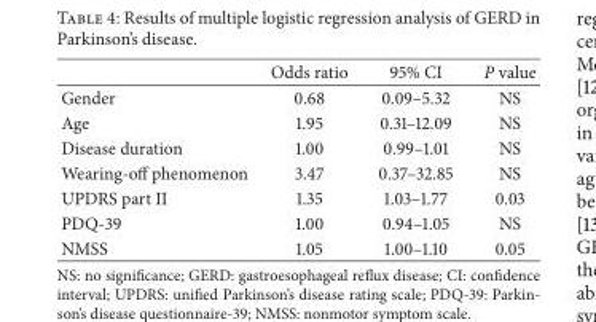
<table><thead><tr><td></td><td>Odds ratio</td><td>95% CI</td><td>P value</td></tr></thead><tbody><tr><td>Gender</td><td>0.68</td><td>0.09–5.32</td><td>NS</td></tr><tr><td>Age</td><td>1.95</td><td>0.31–12.09</td><td>NS</td></tr><tr><td>Disease duration</td><td>1.00</td><td>0.99–1.01</td><td>NS</td></tr><tr><td>Wearing-off phenomenon</td><td>3.47</td><td>0.37–32.85</td><td>NS</td></tr><tr><td>UPDRS part II</td><td>1.35</td><td>1.03–1.77</td><td>0.03</td></tr><tr><td>PDQ-39</td><td>1.00</td><td>0.94–1.05</td><td>NS</td></tr><tr><td>NMSS</td><td>1.05</td><td>1.00–1.10</td><td>0.05</td></tr></tbody></table>